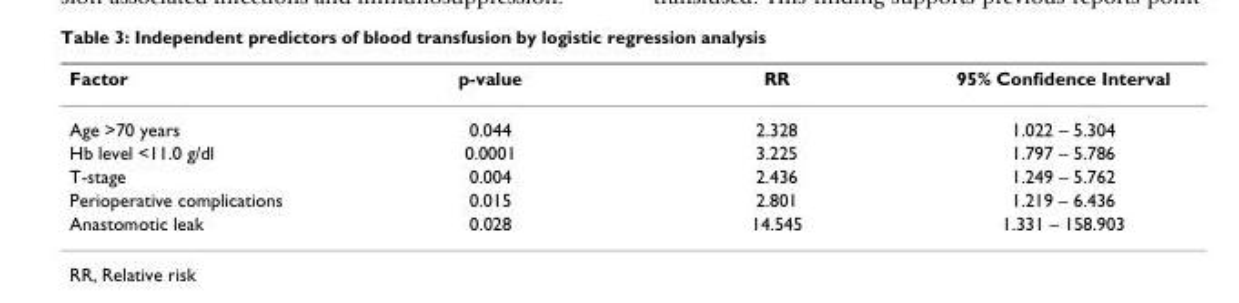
<table><thead><tr><td>Factor</td><td>p-value</td><td>RR</td><td>95% Confidence Interval</td></tr></thead><tbody><tr><td>Age &gt;70 years</td><td>0.044</td><td>2.328</td><td>1.022 – 5.304</td></tr><tr><td>Hb level &lt;11.0 g/dl</td><td>0.0001</td><td>3.225</td><td>1.797 – 5.786</td></tr><tr><td>T-stage</td><td>0.004</td><td>2.436</td><td>1.249 – 5.762</td></tr><tr><td>Perioperative complications</td><td>0.015</td><td>2.801</td><td>1.219 – 6.436</td></tr><tr><td>Anastomotic leak</td><td>0.028</td><td>14.545</td><td>1.331 – 158.903</td></tr></tbody></table>